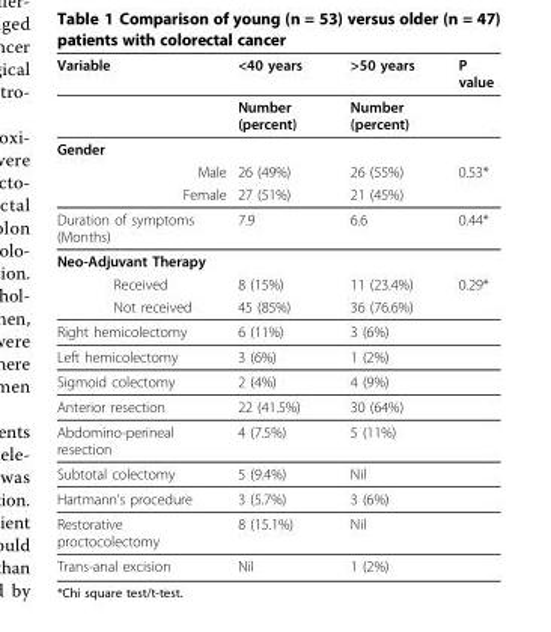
<table><thead><tr><td>Variable</td><td>&lt;40 years</td><td>&gt;50 years</td><td>P value</td></tr></thead><tbody><tr><td></td><td>Number (percent)</td><td>Number (percent)</td><td></td></tr><tr><td colspan="4">Gender</td></tr><tr><td>Male</td><td>26 (49%)</td><td>26 (55%)</td><td>0.53*</td></tr><tr><td>Female</td><td>27 (51%)</td><td>21 (45%)</td><td></td></tr><tr><td>Duration of symptoms (Months)</td><td>7.9</td><td>6.6</td><td>0.44*</td></tr><tr><td colspan="4">Neo-Adjuvant Therapy</td></tr><tr><td>Received</td><td>8 (15%)</td><td>11 (23.4%)</td><td>0.29*</td></tr><tr><td>Not received</td><td>45 (85%)</td><td>36 (76.6%)</td><td></td></tr><tr><td>Right hemicolectomy</td><td>6 (11%)</td><td>3 (6%)</td><td></td></tr><tr><td>Left hemicolectomy</td><td>3 (6%)</td><td>1 (2%)</td><td></td></tr><tr><td>Sigmoid colectomy</td><td>2 (4%)</td><td>4 (9%)</td><td></td></tr><tr><td>Anterior resection</td><td>22 (41.5%)</td><td>30 (64%)</td><td></td></tr><tr><td>Abdomino-perineal resection</td><td>4 (7.5%)</td><td>5 (11%)</td><td></td></tr><tr><td>Subtotal colectomy</td><td>5 (9.4%)</td><td>Nil</td><td></td></tr><tr><td>Hartmann’s procedure</td><td>3 (5.7%)</td><td>3 (6%)</td><td></td></tr><tr><td>Restorative proctocolectomy</td><td>8 (15.1%)</td><td>Nil</td><td></td></tr><tr><td>Trans-anal excision</td><td>Nil</td><td>1 (2%)</td><td></td></tr></tbody></table>